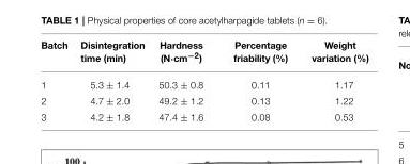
<table><thead><tr><td>Batch</td><td>Disintegration time (min)</td><td>Hardness (N·cm<sup>−2</sup>)</td><td>Percentage friability (%)</td><td>Weight variation (%)</td></tr></thead><tbody><tr><td>1</td><td>5.3 ± 1.4</td><td>50.3 ± 0.8</td><td>0.11</td><td>1.17</td></tr><tr><td>2</td><td>4.7 ± 2.0</td><td>49.2 ± 1.2</td><td>0.13</td><td>1.22</td></tr><tr><td>3</td><td>4.2 ± 1.8</td><td>47.4 ± 1.6</td><td>0.08</td><td>0.53</td></tr></tbody></table>